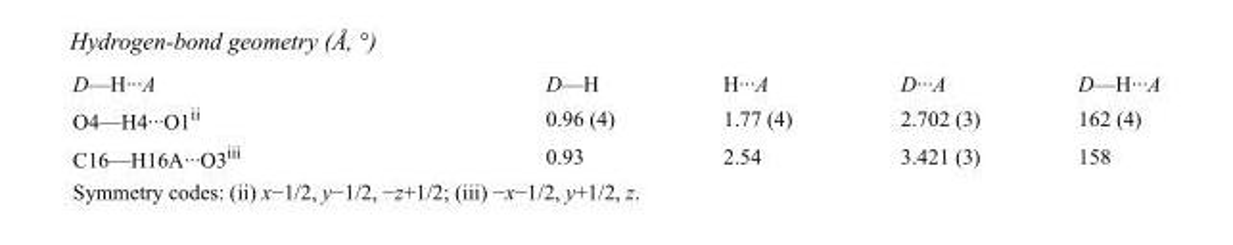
<table><tbody><tr><td>D—H···A</td><td>D—H</td><td>H···A</td><td>D···A</td><td>D—H···A</td></tr><tr><td>O4—H4···O1<sup>ii</sup></td><td>0.96 (4)</td><td>1.77 (4)</td><td>2.702 (3)</td><td>162 (4)</td></tr><tr><td>C16—H16A···O3<sup>iii</sup></td><td>0.93</td><td>2.54</td><td>3.421 (3)</td><td>158</td></tr></tbody></table>